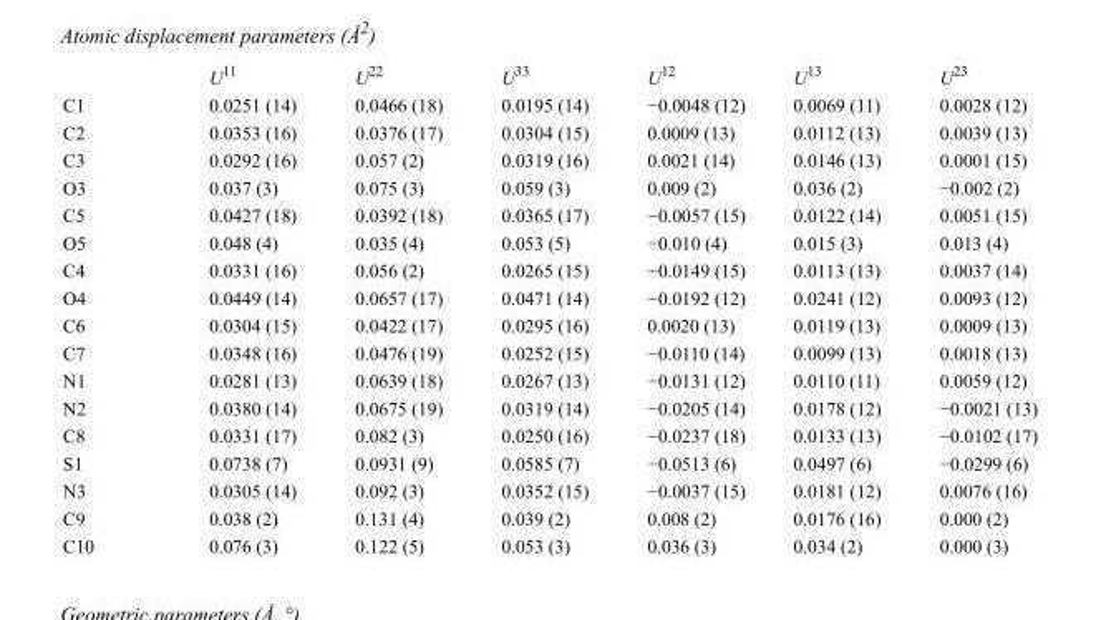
<table><thead><tr><td></td><td>U<sup>11</sup></td><td>U<sup>22</sup></td><td>U<sup>33</sup></td><td>U<sup>12</sup></td><td>U<sup>13</sup></td><td>U<sup>23</sup></td></tr></thead><tbody><tr><td>C1</td><td>0.0251 (14)</td><td>0.0466 (18)</td><td>0.0195 (14)</td><td>−0.0048 (12)</td><td>0.0069 (11)</td><td>0.0028 (12)</td></tr><tr><td>C2</td><td>0.0353 (16)</td><td>0.0376 (17)</td><td>0.0304 (15)</td><td>0.0009 (13)</td><td>0.0112 (13)</td><td>0.0039 (13)</td></tr><tr><td>C3</td><td>0.0292 (16)</td><td>0.057 (2)</td><td>0.0319 (16)</td><td>0.0021 (14)</td><td>0.0146 (13)</td><td>0.0001 (15)</td></tr><tr><td>O3</td><td>0.037 (3)</td><td>0.075 (3)</td><td>0.059 (3)</td><td>0.009 (2)</td><td>0.036 (2)</td><td>−0.002 (2)</td></tr><tr><td>C5</td><td>0.0427 (18)</td><td>0.0392 (18)</td><td>0.0365 (17)</td><td>−0.0057 (15)</td><td>0.0122 (14)</td><td>0.0051 (15)</td></tr><tr><td>O5</td><td>0.048 (4)</td><td>0.035 (4)</td><td>0.053 (5)</td><td>−0.010 (4)</td><td>0.015 (3)</td><td>0.013 (4)</td></tr><tr><td>C4</td><td>0.0331 (16)</td><td>0.056 (2)</td><td>0.0265 (15)</td><td>−0.0149 (15)</td><td>0.0113 (13)</td><td>0.0037 (14)</td></tr><tr><td>O4</td><td>0.0449 (14)</td><td>0.0657 (17)</td><td>0.0471 (14)</td><td>−0.0192 (12)</td><td>0.0241 (12)</td><td>0.0093 (12)</td></tr><tr><td>C6</td><td>0.0304 (15)</td><td>0.0422 (17)</td><td>0.0295 (16)</td><td>0.0020 (13)</td><td>0.0119 (13)</td><td>0.0009 (13)</td></tr><tr><td>C7</td><td>0.0348 (16)</td><td>0.0476 (19)</td><td>0.0252 (15)</td><td>−0.0110 (14)</td><td>0.0099 (13)</td><td>0.0018 (13)</td></tr><tr><td>N1</td><td>0.0281 (13)</td><td>0.0639 (18)</td><td>0.0267 (13)</td><td>−0.0131 (12)</td><td>0.0110 (11)</td><td>0.0059 (12)</td></tr><tr><td>N2</td><td>0.0380 (14)</td><td>0.0675 (19)</td><td>0.0319 (14)</td><td>−0.0205 (14)</td><td>0.0178 (12)</td><td>−0.0021 (13)</td></tr><tr><td>C8</td><td>0.0331 (17)</td><td>0.082 (3)</td><td>0.0250 (16)</td><td>−0.0237 (18)</td><td>0.0133 (13)</td><td>−0.0102 (17)</td></tr><tr><td>S1</td><td>0.0738 (7)</td><td>0.0931 (9)</td><td>0.0585 (7)</td><td>−0.0513 (6)</td><td>0.0497 (6)</td><td>−0.0299 (6)</td></tr><tr><td>N3</td><td>0.0305 (14)</td><td>0.092 (3)</td><td>0.0352 (15)</td><td>−0.0037 (15)</td><td>0.0181 (12)</td><td>0.0076 (16)</td></tr><tr><td>C9</td><td>0.038 (2)</td><td>0.131 (4)</td><td>0.039 (2)</td><td>0.008 (2)</td><td>0.0176 (16)</td><td>0.000 (2)</td></tr><tr><td>C10</td><td>0.076 (3)</td><td>0.122 (5)</td><td>0.053 (3)</td><td>0.036 (3)</td><td>0.034 (2)</td><td>0.000 (3)</td></tr></tbody></table>